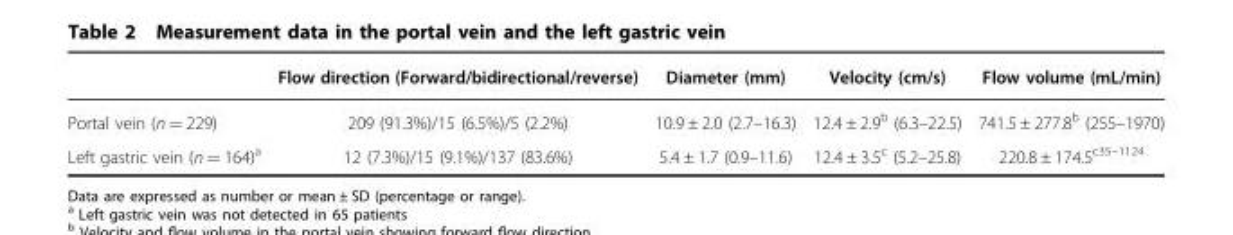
<table><thead><tr><td></td><td>Flow direction (Forward/bidirectional/reverse)</td><td>Diameter (mm)</td><td>Velocity (cm/s)</td><td>Flow volume (mL/min)</td></tr></thead><tbody><tr><td>Portal vein (n = 229)</td><td>209 (91.3%)/15 (6.5%)/5 (2.2%)</td><td>10.9 ± 2.0 (2.7–16.3)</td><td>12.4 ± 2.9<sup>b</sup> (6.3–22.5)</td><td>741.5 ± 277.8<sup>b</sup> (255–1970)</td></tr><tr><td>Left gastric vein (n = 164)<sup>a</sup></td><td>12 (7.3%)/15 (9.1%)/137 (83.6%)</td><td>5.4 ± 1.7 (0.9–11.6)</td><td>12.4 ± 3.5<sup>c</sup> (5.2–25.8)</td><td>220.8 ± 174.5<sup>c35–1124</sup></td></tr></tbody></table>